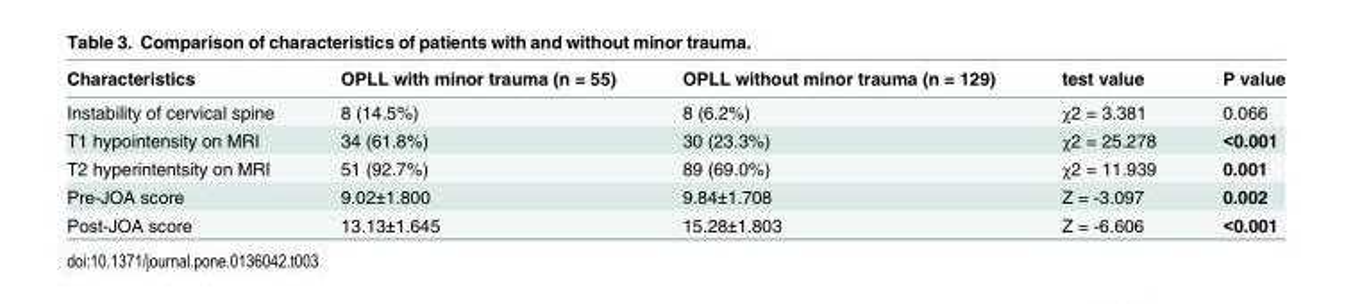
<table><thead><tr><td>Characteristics</td><td>OPLL with minor trauma (n = 55)</td><td>OPLL without minor trauma (n = 129)</td><td>test value</td><td>P value</td></tr></thead><tbody><tr><td>Instability of cervical spine</td><td>8 (14.5%)</td><td>8 (6.2%)</td><td>χ2 = 3.381</td><td>0.066</td></tr><tr><td>T1 hypointensity on MRI</td><td>34 (61.8%)</td><td>30 (23.3%)</td><td>χ2 = 25.278</td><td>&lt;0.001</td></tr><tr><td>T2 hyperintentsity on MRI</td><td>51 (92.7%)</td><td>89 (69.0%)</td><td>χ2 = 11.939</td><td>0.001</td></tr><tr><td>Pre-JOA score</td><td>9.02±1.800</td><td>9.84±1.708</td><td>Z = -3.097</td><td>0.002</td></tr><tr><td>Post-JOA score</td><td>13.13±1.645</td><td>15.28±1.803</td><td>Z = -6.606</td><td>&lt;0.001</td></tr></tbody></table>